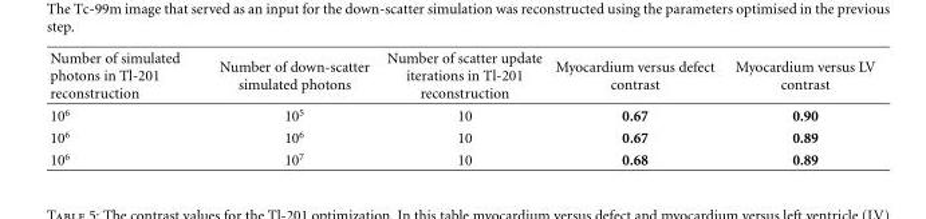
<table><thead><tr><td>Number of simulated photons in Tl-201 reconstruction</td><td>Number of down-scatter simulated photons</td><td>Number of scatter update iterations in Tl-201 reconstruction</td><td>Myocardium versus defect contrast</td><td>Myocardium versus LV contrast</td></tr></thead><tbody><tr><td>10<sup>6</sup></td><td>10<sup>5</sup></td><td>10</td><td>0.67</td><td>0.90</td></tr><tr><td>10<sup>6</sup></td><td>10<sup>6</sup></td><td>10</td><td>0.67</td><td>0.89</td></tr><tr><td>10<sup>6</sup></td><td>10<sup>7</sup></td><td>10</td><td>0.68</td><td>0.89</td></tr></tbody></table>